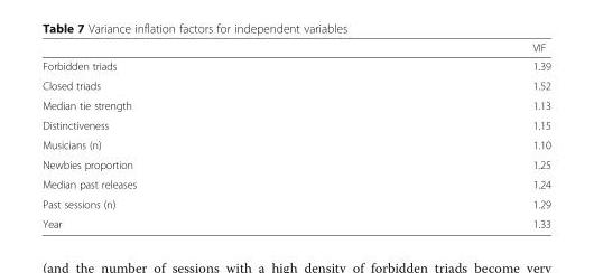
<table><thead><tr><td></td><td>VIF</td></tr></thead><tbody><tr><td>Forbidden triads</td><td>1.39</td></tr><tr><td>Closed triads</td><td>1.52</td></tr><tr><td>Median tie strength</td><td>1.13</td></tr><tr><td>Distinctiveness</td><td>1.15</td></tr><tr><td>Musicians (n)</td><td>1.10</td></tr><tr><td>Newbies proportion</td><td>1.25</td></tr><tr><td>Median past releases</td><td>1.24</td></tr><tr><td>Past sessions (n)</td><td>1.29</td></tr><tr><td>Year</td><td>1.33</td></tr></tbody></table>